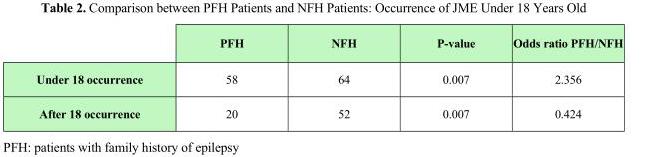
<table><thead><tr><td></td><td>PFH</td><td>NFH</td><td>P-value</td><td>Odds ratio PFH/NFH</td></tr></thead><tbody><tr><td>Under 18 occurrence</td><td>58</td><td>64</td><td>0.007</td><td>2.356</td></tr><tr><td>After 18 occurrence</td><td>20</td><td>52</td><td>0.007</td><td>0.424</td></tr></tbody></table>